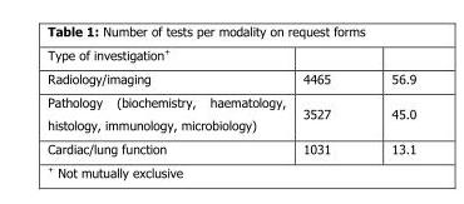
<table><thead><tr><td>Type of investigation+</td><td></td><td></td></tr></thead><tbody><tr><td>Radiology/imaging</td><td>4465</td><td>56.9</td></tr><tr><td>Pathology (biochemistry, haematology, histology, immunology, microbiology)</td><td>3527</td><td>45.0</td></tr><tr><td>Cardiac/lung function</td><td>1031</td><td>13.1</td></tr></tbody></table>